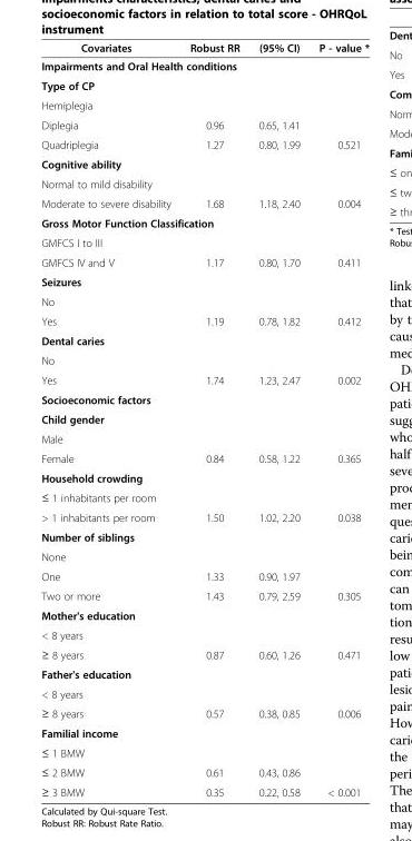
<table><thead><tr><td>Covariates</td><td>Robust RR</td><td>(95% CI)</td><td>P - value *</td></tr></thead><tbody><tr><td colspan="4">Impairments and Oral Health conditions</td></tr><tr><td colspan="4">Type of CP</td></tr><tr><td colspan="4">Hemiplegia</td></tr><tr><td>Diplegia</td><td>0.96</td><td>0.65, 1.41</td><td></td></tr><tr><td>Quadriplegia</td><td>1.27</td><td>0.80, 1.99</td><td>0.521</td></tr><tr><td colspan="4">Cognitive ability</td></tr><tr><td colspan="4">Normal to mild disability</td></tr><tr><td>Moderate to severe disability</td><td>1.68</td><td>1.18, 2.40</td><td>0.004</td></tr><tr><td colspan="4">Gross Motor Function Classification</td></tr><tr><td colspan="4">GMFCS I to III</td></tr><tr><td>GMFCS IV and V</td><td>1.17</td><td>0.80, 1.70</td><td>0.411</td></tr><tr><td colspan="4">Seizures</td></tr><tr><td colspan="4">No</td></tr><tr><td>Yes</td><td>1.19</td><td>0.78, 1.82</td><td>0.412</td></tr><tr><td colspan="4">Dental caries</td></tr><tr><td colspan="4">No</td></tr><tr><td>Yes</td><td>1.74</td><td>1.23, 2.47</td><td>0.002</td></tr><tr><td colspan="4">Socioeconomic factors</td></tr><tr><td colspan="4">Child gender</td></tr><tr><td colspan="4">Male</td></tr><tr><td>Female</td><td>0.84</td><td>0.58, 1.22</td><td>0.365</td></tr><tr><td colspan="4">Household crowding</td></tr><tr><td colspan="4">≤ 1 inhabitants per room</td></tr><tr><td>&gt; 1 inhabitants per room</td><td>1.50</td><td>1.02, 2.20</td><td>0.038</td></tr><tr><td colspan="4">Number of siblings</td></tr><tr><td colspan="4">None</td></tr><tr><td>One</td><td>1.33</td><td>0.90, 1.97</td><td></td></tr><tr><td>Two or more</td><td>1.43</td><td>0.79, 2.59</td><td>0.305</td></tr><tr><td colspan="4">Mother&#x27;s education</td></tr><tr><td colspan="4">&lt; 8 years</td></tr><tr><td>≥ 8 years</td><td>0.87</td><td>0.60, 1.26</td><td>0.471</td></tr><tr><td colspan="4">Father&#x27;s education</td></tr><tr><td colspan="4">&lt; 8 years</td></tr><tr><td>≥ 8 years</td><td>0.57</td><td>0.38, 0.85</td><td>0.006</td></tr><tr><td colspan="4">Familial income</td></tr><tr><td colspan="4">≤ 1 BMW</td></tr><tr><td>≤ 2 BMW</td><td>0.61</td><td>0.43, 0.86</td><td></td></tr><tr><td>≥ 3 BMW</td><td>0.35</td><td>0.22, 0.58</td><td>&lt; 0.001</td></tr></tbody></table>